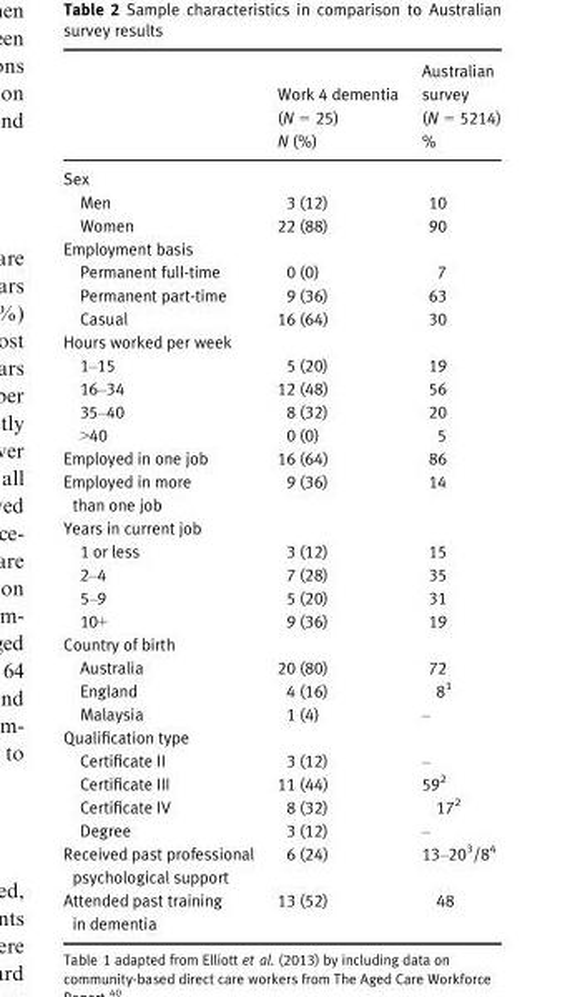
<table><thead><tr><td rowspan="2"></td><td rowspan="2">Work 4 dementia (N = 25) N (%)</td><td rowspan="2">Australian survey (N = 5214) %</td></tr><tr></tr></thead><tbody><tr><td colspan="3">Sex</td></tr><tr><td>Men</td><td>3 (12)</td><td>10</td></tr><tr><td>Women</td><td>22 (88)</td><td>90</td></tr><tr><td colspan="3">Employment basis</td></tr><tr><td>Permanent full-time</td><td>0 (0)</td><td>7</td></tr><tr><td>Permanent part-time</td><td>9 (36)</td><td>63</td></tr><tr><td>Casual</td><td>16 (64)</td><td>30</td></tr><tr><td colspan="3">Hours worked per week</td></tr><tr><td>1–15</td><td>5 (20)</td><td>19</td></tr><tr><td>16–34</td><td>12 (48)</td><td>56</td></tr><tr><td>35–40</td><td>8 (32)</td><td>20</td></tr><tr><td>&gt;40</td><td>0 (0)</td><td>5</td></tr><tr><td>Employed in one job</td><td>16 (64)</td><td>86</td></tr><tr><td>Employed in more than one job</td><td>9 (36)</td><td>14</td></tr><tr><td colspan="3">Years in current job</td></tr><tr><td>1 or less</td><td>3 (12)</td><td>15</td></tr><tr><td>2–4</td><td>7 (28)</td><td>35</td></tr><tr><td>5–9</td><td>5 (20)</td><td>31</td></tr><tr><td>10+</td><td>9 (36)</td><td>19</td></tr><tr><td colspan="3">Country of birth</td></tr><tr><td>Australia</td><td>20 (80)</td><td>72</td></tr><tr><td>England</td><td>4 (16)</td><td>81</td></tr><tr><td>Malaysia</td><td>1 (4)</td><td>–</td></tr><tr><td colspan="3">Qualification type</td></tr><tr><td>Certificate II</td><td>3 (12)</td><td>–</td></tr><tr><td>Certificate III</td><td>11 (44)</td><td>592</td></tr><tr><td>Certificate IV</td><td>8 (32)</td><td>172</td></tr><tr><td>Degree</td><td>3 (12)</td><td>–</td></tr><tr><td>Received past professional psychological support</td><td>6 (24)</td><td>13–203/84</td></tr><tr><td>Attended past training in dementia</td><td>13 (52)</td><td>48</td></tr></tbody></table>